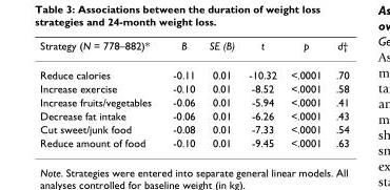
<table><thead><tr><td>Strategy (N = 778–882)*</td><td>B</td><td>SE (B)</td><td>t</td><td>p</td><td>d†</td></tr></thead><tbody><tr><td>Reduce calories</td><td>-0.11</td><td>0.01</td><td>-10.32</td><td>&lt;.0001</td><td>.70</td></tr><tr><td>Increase exercise</td><td>-0.10</td><td>0.01</td><td>-8.52</td><td>&lt;.0001</td><td>.58</td></tr><tr><td>Increase fruits/vegetables</td><td>-0.06</td><td>0.01</td><td>-5.94</td><td>&lt;.0001</td><td>.41</td></tr><tr><td>Decrease fat intake</td><td>-0.06</td><td>0.01</td><td>-6.26</td><td>&lt;.0001</td><td>.43</td></tr><tr><td>Cut sweet/junk food</td><td>-0.08</td><td>0.01</td><td>-7.33</td><td>&lt;.0001</td><td>.54</td></tr><tr><td>Reduce amount of food</td><td>-0.10</td><td>0.01</td><td>-9.45</td><td>&lt;.0001</td><td>.63</td></tr></tbody></table>